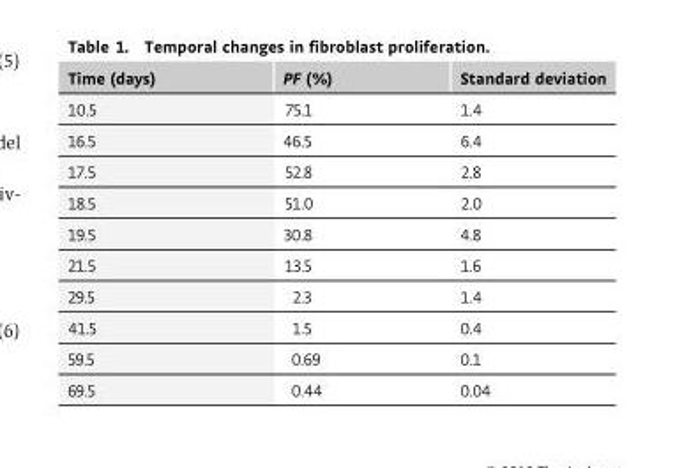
<table><thead><tr><td>Time (days)</td><td>PF (%)</td><td>Standard deviation</td></tr></thead><tbody><tr><td>10.5</td><td>75.1</td><td>1.4</td></tr><tr><td>16.5</td><td>46.5</td><td>6.4</td></tr><tr><td>17.5</td><td>52.8</td><td>2.8</td></tr><tr><td>18.5</td><td>51.0</td><td>2.0</td></tr><tr><td>19.5</td><td>30.8</td><td>4.8</td></tr><tr><td>21.5</td><td>13.5</td><td>1.6</td></tr><tr><td>29.5</td><td>2.3</td><td>1.4</td></tr><tr><td>41.5</td><td>1.5</td><td>0.4</td></tr><tr><td>59.5</td><td>0.69</td><td>0.1</td></tr><tr><td>69.5</td><td>0.44</td><td>0.04</td></tr></tbody></table>